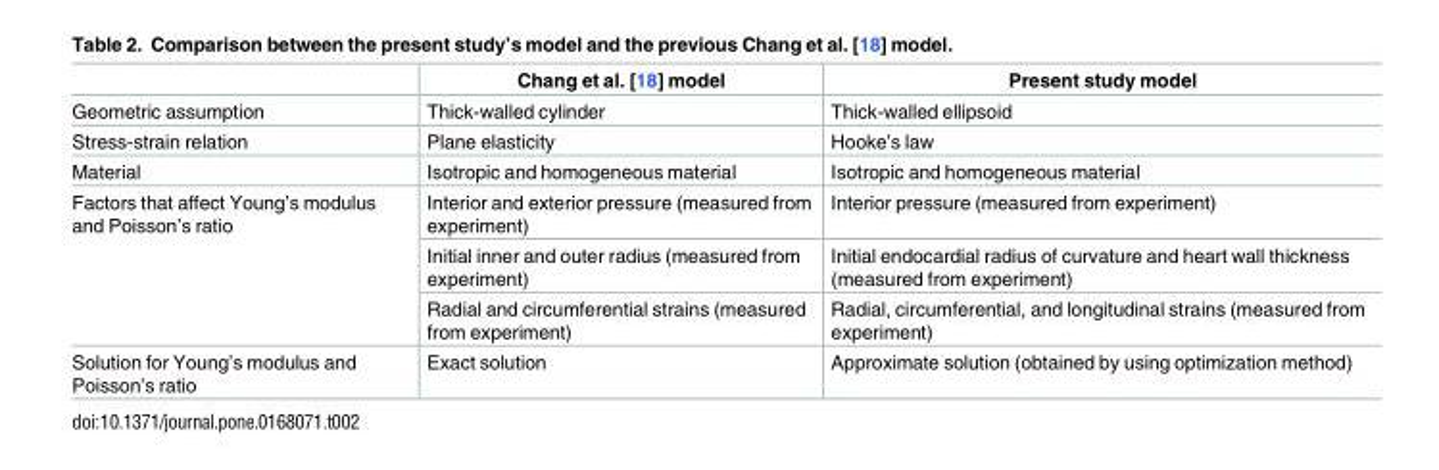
<table><thead><tr><td></td><td>Chang et al. [18] model</td><td>Present study model</td></tr></thead><tbody><tr><td>Geometric assumption</td><td>Thick-walled cylinder</td><td>Thick-walled ellipsoid</td></tr><tr><td>Stress-strain relation</td><td>Plane elasticity</td><td>Hooke’s law</td></tr><tr><td>Material</td><td>Isotropic and homogeneous material</td><td>Isotropic and homogeneous material</td></tr><tr><td rowspan="3">Factors that affect Young’s modulus and Poisson’s ratio</td><td>Interior and exterior pressure (measured from experiment)</td><td>Interior pressure (measured from experiment)</td></tr><tr><td>Initial inner and outer radius (measured from experiment)</td><td>Initial endocardial radius of curvature and heart wall thickness (measured from experiment)</td></tr><tr><td>Radial and circumferential strains (measured from experiment)</td><td>Radial, circumferential, and longitudinal strains (measured from experiment)</td></tr><tr><td>Solution for Young’s modulus and Poisson’s ratio</td><td>Exact solution</td><td>Approximate solution (obtained by using optimization method)</td></tr></tbody></table>